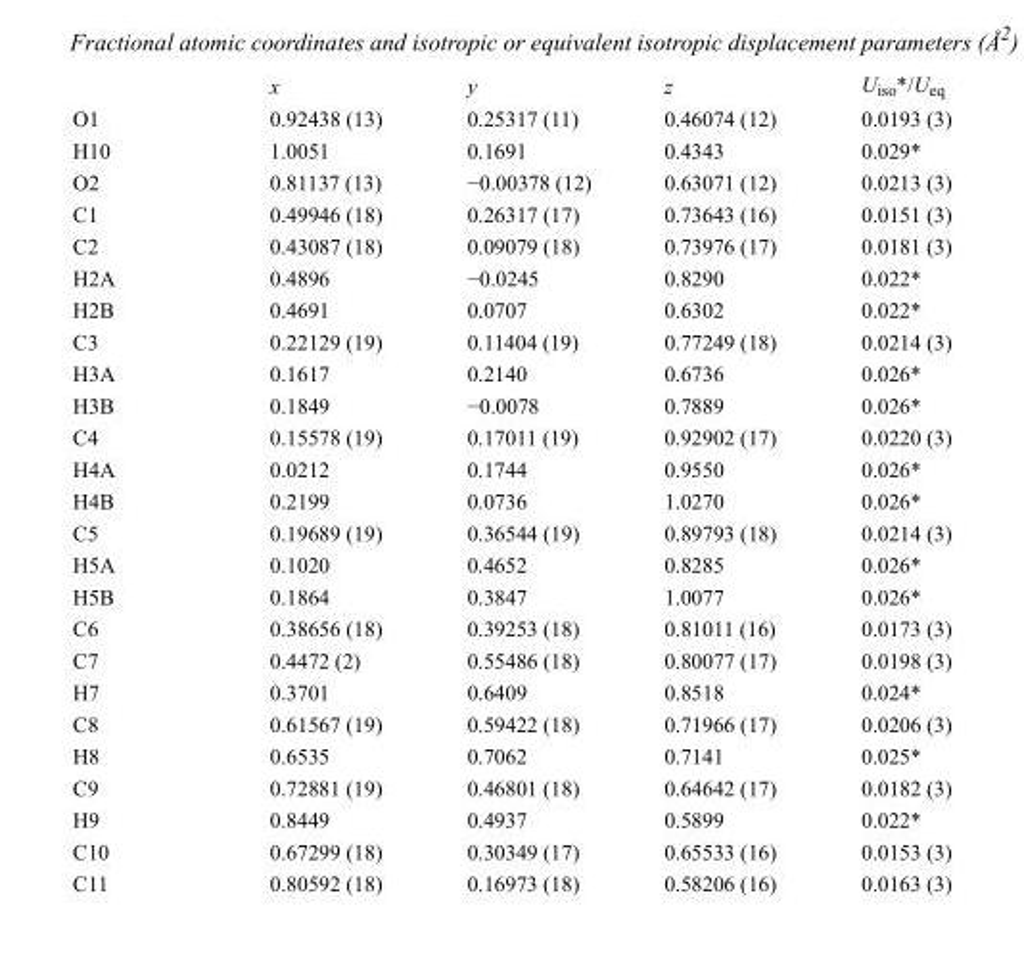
<table><thead><tr><td></td><td>x</td><td>y</td><td>z</td><td>U<sub>iso</sub>*/U<sub>eq</sub></td></tr></thead><tbody><tr><td>O1</td><td>0.92438 (13)</td><td>0.25317 (11)</td><td>0.46074 (12)</td><td>0.0193 (3)</td></tr><tr><td>H10</td><td>1.0051</td><td>0.1691</td><td>0.4343</td><td>0.029*</td></tr><tr><td>O2</td><td>0.81137 (13)</td><td>−0.00378 (12)</td><td>0.63071 (12)</td><td>0.0213 (3)</td></tr><tr><td>C1</td><td>0.49946 (18)</td><td>0.26317 (17)</td><td>0.73643 (16)</td><td>0.0151 (3)</td></tr><tr><td>C2</td><td>0.43087 (18)</td><td>0.09079 (18)</td><td>0.73976 (17)</td><td>0.0181 (3)</td></tr><tr><td>H2A</td><td>0.4896</td><td>−0.0245</td><td>0.8290</td><td>0.022*</td></tr><tr><td>H2B</td><td>0.4691</td><td>0.0707</td><td>0.6302</td><td>0.022*</td></tr><tr><td>C3</td><td>0.22129 (19)</td><td>0.11404 (19)</td><td>0.77249 (18)</td><td>0.0214 (3)</td></tr><tr><td>H3A</td><td>0.1617</td><td>0.2140</td><td>0.6736</td><td>0.026*</td></tr><tr><td>H3B</td><td>0.1849</td><td>−0.0078</td><td>0.7889</td><td>0.026*</td></tr><tr><td>C4</td><td>0.15578 (19)</td><td>0.17011 (19)</td><td>0.92902 (17)</td><td>0.0220 (3)</td></tr><tr><td>H4A</td><td>0.0212</td><td>0.1744</td><td>0.9550</td><td>0.026*</td></tr><tr><td>H4B</td><td>0.2199</td><td>0.0736</td><td>1.0270</td><td>0.026*</td></tr><tr><td>C5</td><td>0.19689 (19)</td><td>0.36544 (19)</td><td>0.89793 (18)</td><td>0.0214 (3)</td></tr><tr><td>H5A</td><td>0.1020</td><td>0.4652</td><td>0.8285</td><td>0.026*</td></tr><tr><td>H5B</td><td>0.1864</td><td>0.3847</td><td>1.0077</td><td>0.026*</td></tr><tr><td>C6</td><td>0.38656 (18)</td><td>0.39253 (18)</td><td>0.81011 (16)</td><td>0.0173 (3)</td></tr><tr><td>C7</td><td>0.4472 (2)</td><td>0.55486 (18)</td><td>0.80077 (17)</td><td>0.0198 (3)</td></tr><tr><td>H7</td><td>0.3701</td><td>0.6409</td><td>0.8518</td><td>0.024*</td></tr><tr><td>C8</td><td>0.61567 (19)</td><td>0.59422 (18)</td><td>0.71966 (17)</td><td>0.0206 (3)</td></tr><tr><td>H8</td><td>0.6535</td><td>0.7062</td><td>0.7141</td><td>0.025*</td></tr><tr><td>C9</td><td>0.72881 (19)</td><td>0.46801 (18)</td><td>0.64642 (17)</td><td>0.0182 (3)</td></tr><tr><td>H9</td><td>0.8449</td><td>0.4937</td><td>0.5899</td><td>0.022*</td></tr><tr><td>C10</td><td>0.67299 (18)</td><td>0.30349 (17)</td><td>0.65533 (16)</td><td>0.0153 (3)</td></tr><tr><td>C11</td><td>0.80592 (18)</td><td>0.16973 (18)</td><td>0.58206 (16)</td><td>0.0163 (3)</td></tr></tbody></table>